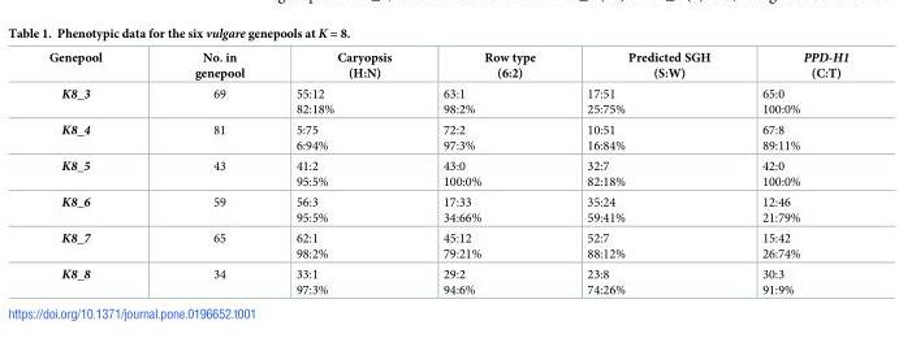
<table><thead><tr><td>Genepool</td><td>No. in genepool</td><td>Caryopsis (H:N)</td><td>Row type (6:2)</td><td>Predicted SGH (S:W)</td><td>PPD-H1 (C:T)</td></tr></thead><tbody><tr><td>K8_3</td><td>69</td><td>55:12 82:18%</td><td>63:1 98:2%</td><td>17:51 25:75%</td><td>65:0 100:0%</td></tr><tr><td>K8_4</td><td>81</td><td>5:75 6:94%</td><td>72:2 97:3%</td><td>10:51 16:84%</td><td>67:8 89:11%</td></tr><tr><td>K8_5</td><td>43</td><td>41:2 95:5%</td><td>43:0 100:0%</td><td>32:7 82:18%</td><td>42:0 100:0%</td></tr><tr><td>K8_6</td><td>59</td><td>56:3 95:5%</td><td>17:33 34:66%</td><td>35:24 59:41%</td><td>12:46 21:79%</td></tr><tr><td>K8_7</td><td>65</td><td>62:1 98:2%</td><td>45:12 79:21%</td><td>52:7 88:12%</td><td>15:42 26:74%</td></tr><tr><td>K8_8</td><td>34</td><td>33:1 97:3%</td><td>29:2 94:6%</td><td>23:8 74:26%</td><td>30:3 91:9%</td></tr></tbody></table>